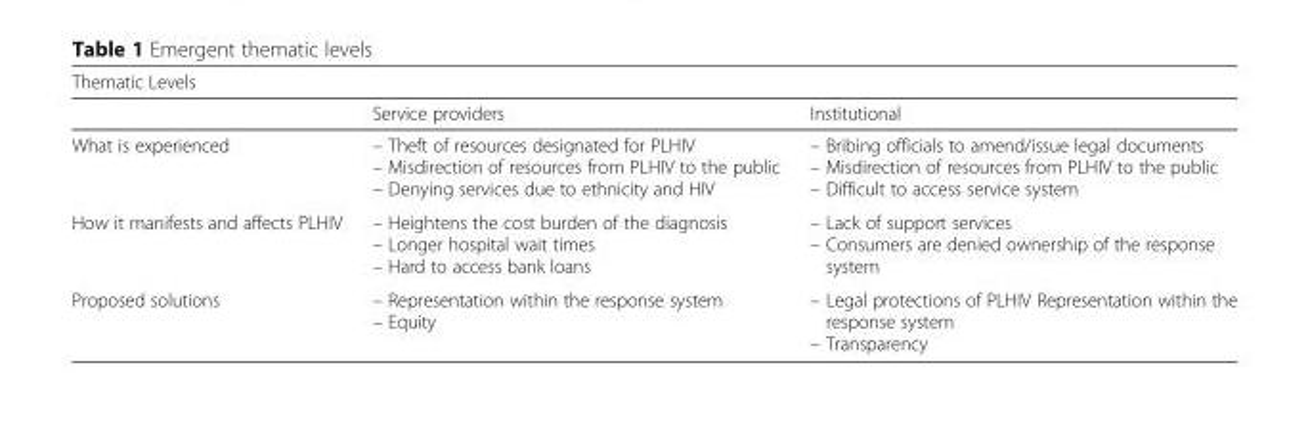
<table><thead><tr><td colspan="3">Thematic Levels</td></tr><tr><td></td><td>Service providers</td><td>Institutional</td></tr></thead><tbody><tr><td>What is experienced</td><td>– Theft of resources designated for PLHIV – Misdirection of resources from PLHIV to the public – Denying services due to ethnicity and HIV</td><td>– Bribing officials to amend/issue legal documents – Misdirection of resources from PLHIV to the public – Difficult to access service system</td></tr><tr><td>How it manifests and affects PLHIV</td><td>– Heightens the cost burden of the diagnosis – Longer hospital wait times – Hard to access bank loans</td><td>– Lack of support services – Consumers are denied ownership of the response system</td></tr><tr><td>Proposed solutions</td><td>– Representation within the response system – Equity</td><td>– Legal protections of PLHIV Representation within the response system – Transparency</td></tr></tbody></table>